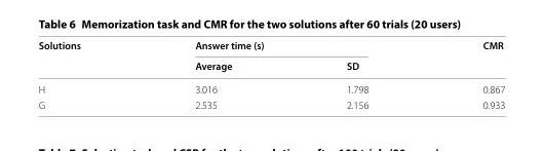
<table><thead><tr><td rowspan="2">Solutions</td><td colspan="2">Answer time (s)</td><td rowspan="2">CMR</td></tr><tr><td>Average</td><td>SD</td></tr></thead><tbody><tr><td>H</td><td>3.016</td><td>1.798</td><td>0.867</td></tr><tr><td>G</td><td>2.535</td><td>2.156</td><td>0.933</td></tr></tbody></table>